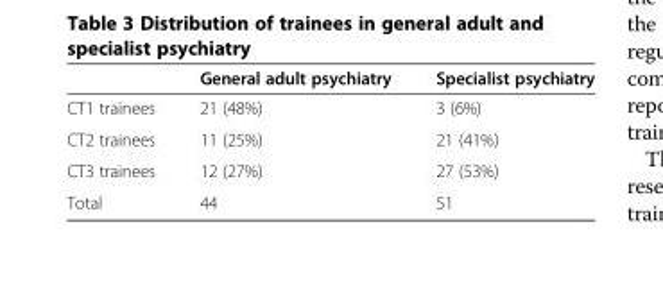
<table><thead><tr><td></td><td>General adult psychiatry</td><td>Specialist psychiatry</td></tr></thead><tbody><tr><td>CT1 trainees</td><td>21 (48%)</td><td>3 (6%)</td></tr><tr><td>CT2 trainees</td><td>11 (25%)</td><td>21 (41%)</td></tr><tr><td>CT3 trainees</td><td>12 (27%)</td><td>27 (53%)</td></tr><tr><td>Total</td><td>44</td><td>51</td></tr></tbody></table>